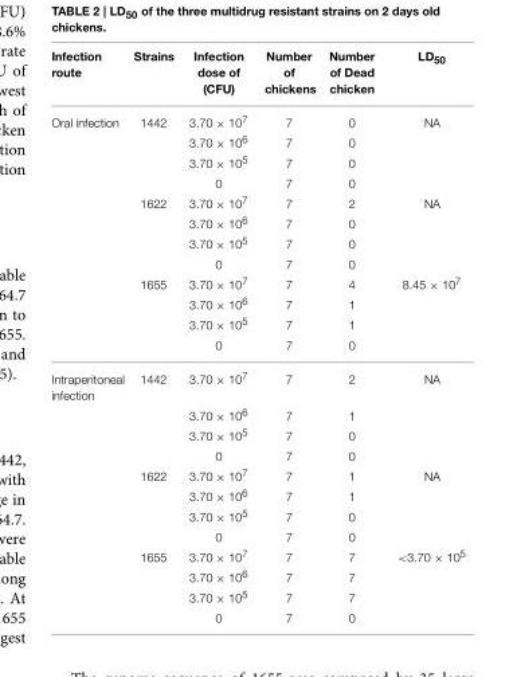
<table><thead><tr><td>Infection route</td><td>Strains</td><td>Infection dose of (CFU)</td><td>Number of chickens</td><td>Number of Dead chicken</td><td>LD<sub>50</sub></td></tr></thead><tbody><tr><td rowspan="12">Oral infection</td><td>1442</td><td>3.70 × 10<sup>7</sup></td><td>7</td><td>0</td><td>NA</td></tr><tr><td></td><td>3.70 × 10<sup>6</sup></td><td>7</td><td>0</td><td></td></tr><tr><td></td><td>3.70 × 10<sup>5</sup></td><td>7</td><td>0</td><td></td></tr><tr><td></td><td>0</td><td>7</td><td>0</td><td></td></tr><tr><td>1622</td><td>3.70 × 10<sup>7</sup></td><td>7</td><td>2</td><td>NA</td></tr><tr><td></td><td>3.70 × 10<sup>6</sup></td><td>7</td><td>0</td><td></td></tr><tr><td></td><td>3.70 × 10<sup>5</sup></td><td>7</td><td>0</td><td></td></tr><tr><td></td><td>0</td><td>7</td><td>0</td><td></td></tr><tr><td>1655</td><td>3.70 × 10<sup>7</sup></td><td>7</td><td>4</td><td>8.45 × 10<sup>7</sup></td></tr><tr><td></td><td>3.70 × 106</td><td>7</td><td>1</td><td></td></tr><tr><td></td><td>3.70 × 10<sup>5</sup></td><td>7</td><td>1</td><td></td></tr><tr><td></td><td>0</td><td>7</td><td>0</td><td></td></tr><tr><td rowspan="12">Intraperitoneal infection</td><td>1442</td><td>3.70 × 10<sup>7</sup></td><td>7</td><td>2</td><td>NA</td></tr><tr><td></td><td>3.70 × 10<sup>6</sup></td><td>7</td><td>1</td><td></td></tr><tr><td></td><td>3.70 × 10<sup>5</sup></td><td>7</td><td>0</td><td></td></tr><tr><td></td><td>0</td><td>7</td><td>0</td><td></td></tr><tr><td>1622</td><td>3.70 × 10<sup>7</sup></td><td>7</td><td>1</td><td>NA</td></tr><tr><td></td><td>3.70 × 10<sup>6</sup></td><td>7</td><td>1</td><td></td></tr><tr><td></td><td>3.70 × 10<sup>5</sup></td><td>7</td><td>0</td><td></td></tr><tr><td></td><td>0</td><td>7</td><td>0</td><td></td></tr><tr><td>1655</td><td>3.70 × 10<sup>7</sup></td><td>7</td><td>7</td><td>&lt;3.70 × 10<sup>5</sup></td></tr><tr><td></td><td>3.70 × 10<sup>6</sup></td><td>7</td><td>7</td><td></td></tr><tr><td></td><td>3.70 × 10<sup>5</sup></td><td>7</td><td>7</td><td></td></tr><tr><td></td><td>0</td><td>7</td><td>0</td><td></td></tr></tbody></table>